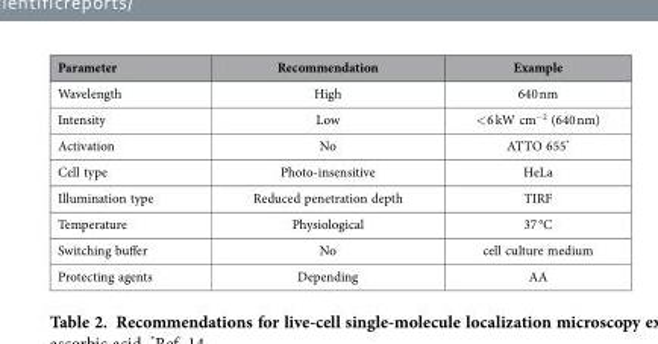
<table><thead><tr><td>Parameter</td><td>Recommendation</td><td>Example</td></tr></thead><tbody><tr><td>Wavelength</td><td>High</td><td>640 nm</td></tr><tr><td>Intensity</td><td>Low</td><td>&lt; 6 kW cm<sup>−2</sup> (640 nm)</td></tr><tr><td>Activation</td><td>No</td><td>ATTO 655*</td></tr><tr><td>Cell type</td><td>Photo-insensitive</td><td>HeLa</td></tr><tr><td>Illumination type</td><td>Reduced penetration depth</td><td>TIRF</td></tr><tr><td>Temperature</td><td>Physiological</td><td>37 °C</td></tr><tr><td>Switching buffer</td><td>No</td><td>cell culture medium</td></tr><tr><td>Protecting agents</td><td>Depending</td><td>AA</td></tr></tbody></table>